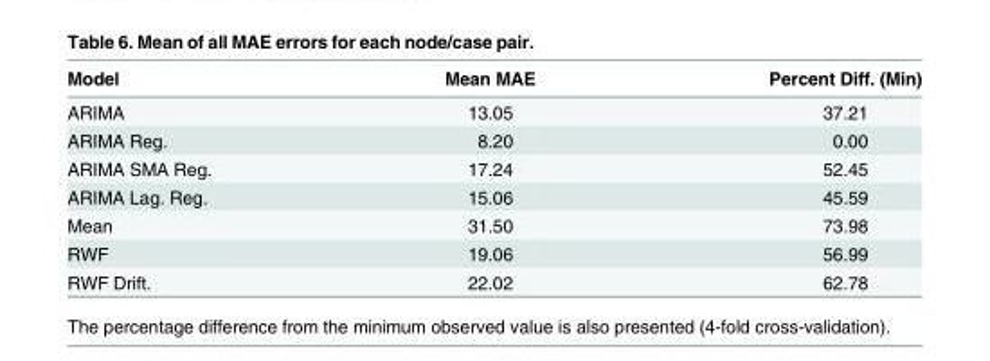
<table><thead><tr><td>Model</td><td>Mean MAE</td><td>Percent Diff. (Min)</td></tr></thead><tbody><tr><td>ARIMA</td><td>13.05</td><td>37.21</td></tr><tr><td>ARIMA Reg.</td><td>8.20</td><td>0.00</td></tr><tr><td>ARIMA SMA Reg.</td><td>17.24</td><td>52.45</td></tr><tr><td>ARIMA Lag. Reg.</td><td>15.06</td><td>45.59</td></tr><tr><td>Mean</td><td>31.50</td><td>73.98</td></tr><tr><td>RWF</td><td>19.06</td><td>56.99</td></tr><tr><td>RWF Drift.</td><td>22.02</td><td>62.78</td></tr></tbody></table>